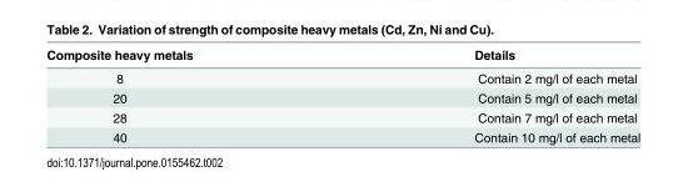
<table><thead><tr><td>Composite heavy metals</td><td>Details</td></tr></thead><tbody><tr><td>8</td><td>Contain 2 mg/l of each metal</td></tr><tr><td>20</td><td>Contain 5 mg/l of each metal</td></tr><tr><td>28</td><td>Contain 7 mg/l of each metal</td></tr><tr><td>40</td><td>Contain 10 mg/l of each metal</td></tr></tbody></table>